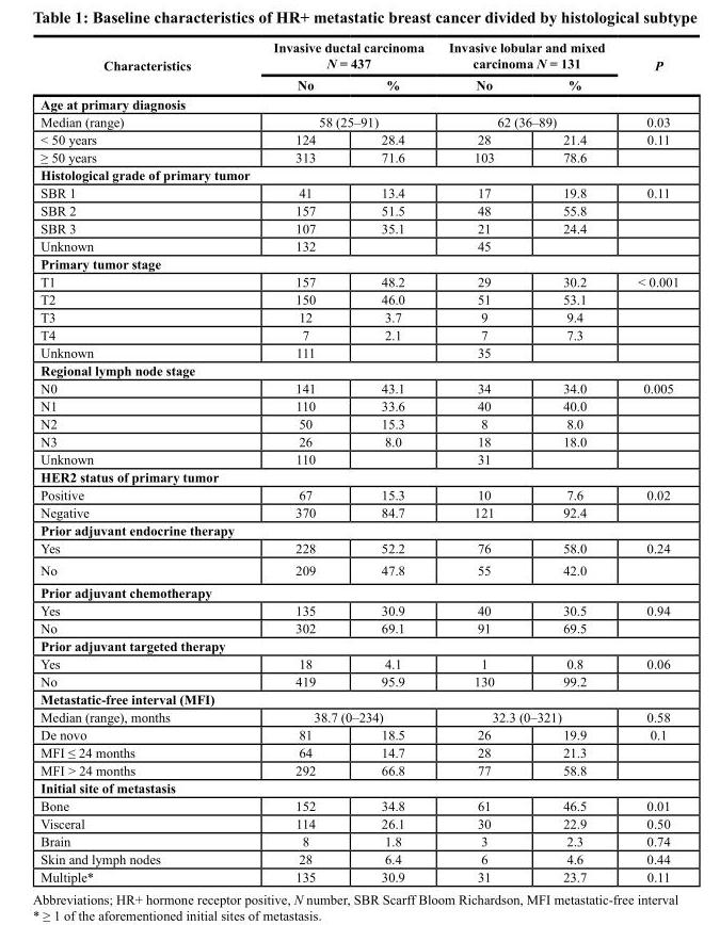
<table><thead><tr><td rowspan="2">Characteristics</td><td colspan="2">Invasive ductal carcinoma N = 437</td><td colspan="2">Invasive lobular and mixed carcinoma N = 131</td><td rowspan="2">P</td></tr><tr><td>No</td><td>%</td><td>No</td><td>%</td></tr></thead><tbody><tr><td colspan="6">Age at primary diagnosis</td></tr><tr><td>Median (range)</td><td colspan="2">58 (25–91)</td><td colspan="2">62 (36–89)</td><td>0.03</td></tr><tr><td>&lt; 50 years</td><td>124</td><td>28.4</td><td>28</td><td>21.4</td><td>0.11</td></tr><tr><td>≥ 50 years</td><td>313</td><td>71.6</td><td>103</td><td>78.6</td><td></td></tr><tr><td colspan="6">Histological grade of primary tumor</td></tr><tr><td>SBR 1</td><td>41</td><td>13.4</td><td>17</td><td>19.8</td><td>0.11</td></tr><tr><td>SBR 2</td><td>157</td><td>51.5</td><td>48</td><td>55.8</td><td></td></tr><tr><td>SBR 3</td><td>107</td><td>35.1</td><td>21</td><td>24.4</td><td></td></tr><tr><td>Unknown</td><td>132</td><td></td><td>45</td><td></td><td></td></tr><tr><td colspan="6">Primary tumor stage</td></tr><tr><td>T1</td><td>157</td><td>48.2</td><td>29</td><td>30.2</td><td>&lt; 0.001</td></tr><tr><td>T2</td><td>150</td><td>46.0</td><td>51</td><td>53.1</td><td></td></tr><tr><td>T3</td><td>12</td><td>3.7</td><td>9</td><td>9.4</td><td></td></tr><tr><td>T4</td><td>7</td><td>2.1</td><td>7</td><td>7.3</td><td></td></tr><tr><td>Unknown</td><td>111</td><td></td><td>35</td><td></td><td></td></tr><tr><td colspan="6">Regional lymph node stage</td></tr><tr><td>N0</td><td>141</td><td>43.1</td><td>34</td><td>34.0</td><td>0.005</td></tr><tr><td>N1</td><td>110</td><td>33.6</td><td>40</td><td>40.0</td><td></td></tr><tr><td>N2</td><td>50</td><td>15.3</td><td>8</td><td>8.0</td><td></td></tr><tr><td>N3</td><td>26</td><td>8.0</td><td>18</td><td>18.0</td><td></td></tr><tr><td>Unknown</td><td>110</td><td></td><td>31</td><td></td><td></td></tr><tr><td colspan="6">HER2 status of primary tumor</td></tr><tr><td>Positive</td><td>67</td><td>15.3</td><td>10</td><td>7.6</td><td>0.02</td></tr><tr><td>Negative</td><td>370</td><td>84.7</td><td>121</td><td>92.4</td><td></td></tr><tr><td colspan="6">Prior adjuvant endocrine therapy</td></tr><tr><td>Yes</td><td>228</td><td>52.2</td><td>76</td><td>58.0</td><td>0.24</td></tr><tr><td>No</td><td>209</td><td>47.8</td><td>55</td><td>42.0</td><td></td></tr><tr><td colspan="6">Prior adjuvant chemotherapy</td></tr><tr><td>Yes</td><td>135</td><td>30.9</td><td>40</td><td>30.5</td><td>0.94</td></tr><tr><td>No</td><td>302</td><td>69.1</td><td>91</td><td>69.5</td><td></td></tr><tr><td colspan="6">Prior adjuvant targeted therapy</td></tr><tr><td>Yes</td><td>18</td><td>4.1</td><td>1</td><td>0.8</td><td>0.06</td></tr><tr><td>No</td><td>419</td><td>95.9</td><td>130</td><td>99.2</td><td></td></tr><tr><td colspan="6">Metastatic-free interval (MFI)</td></tr><tr><td>Median (range), months</td><td colspan="2">38.7 (0–234)</td><td colspan="2">32.3 (0–321)</td><td>0.58</td></tr><tr><td>De novo</td><td>81</td><td>18.5</td><td>26</td><td>19.9</td><td>0.1</td></tr><tr><td>MFI ≤ 24 months</td><td>64</td><td>14.7</td><td>28</td><td>21.3</td><td></td></tr><tr><td>MFI &gt; 24 months</td><td>292</td><td>66.8</td><td>77</td><td>58.8</td><td></td></tr><tr><td colspan="6">Initial site of metastasis</td></tr><tr><td>Bone</td><td>152</td><td>34.8</td><td>61</td><td>46.5</td><td>0.01</td></tr><tr><td>Visceral</td><td>114</td><td>26.1</td><td>30</td><td>22.9</td><td>0.50</td></tr><tr><td>Brain</td><td>8</td><td>1.8</td><td>3</td><td>2.3</td><td>0.74</td></tr><tr><td>Skin and lymph nodes</td><td>28</td><td>6.4</td><td>6</td><td>4.6</td><td>0.44</td></tr><tr><td>Multiple*</td><td>135</td><td>30.9</td><td>31</td><td>23.7</td><td>0.11</td></tr></tbody></table>